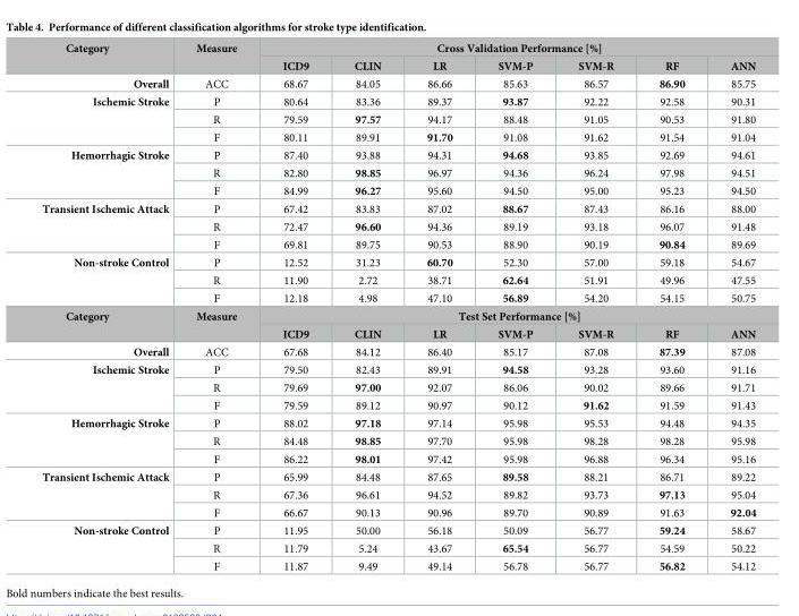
<table><tbody><tr><td rowspan="2">Category</td><td rowspan="2">Measure</td><td colspan="7">Cross Validation Performance [%]</td></tr><tr><td>ICD9</td><td>CLIN</td><td>LR</td><td>SVM-P</td><td>SVM-R</td><td>RF</td><td>ANN</td></tr><tr><td>Overall</td><td>ACC</td><td>68.67</td><td>84.05</td><td>86.66</td><td>85.63</td><td>86.57</td><td>86.90</td><td>85.75</td></tr><tr><td rowspan="3">Ischemic Stroke</td><td>P</td><td>80.64</td><td>83.36</td><td>89.37</td><td>93.87</td><td>92.22</td><td>92.58</td><td>90.31</td></tr><tr><td>R</td><td>79.59</td><td>97.57</td><td>94.17</td><td>88.48</td><td>91.05</td><td>90.53</td><td>91.80</td></tr><tr><td>F</td><td>80.11</td><td>89.91</td><td>91.70</td><td>91.08</td><td>91.62</td><td>91.54</td><td>91.04</td></tr><tr><td rowspan="3">Hemorrhagic Stroke</td><td>P</td><td>87.40</td><td>93.88</td><td>94.31</td><td>94.68</td><td>93.85</td><td>92.69</td><td>94.61</td></tr><tr><td>R</td><td>82.80</td><td>98.85</td><td>96.97</td><td>94.36</td><td>96.24</td><td>97.98</td><td>94.51</td></tr><tr><td>F</td><td>84.99</td><td>96.27</td><td>95.60</td><td>94.50</td><td>95.00</td><td>95.23</td><td>94.50</td></tr><tr><td rowspan="3">Transient Ischemic Attack</td><td>P</td><td>67.42</td><td>83.83</td><td>87.02</td><td>88.67</td><td>87.43</td><td>86.16</td><td>88.00</td></tr><tr><td>R</td><td>72.47</td><td>96.60</td><td>94.36</td><td>89.19</td><td>93.18</td><td>96.07</td><td>91.48</td></tr><tr><td>F</td><td>69.81</td><td>89.75</td><td>90.53</td><td>88.90</td><td>90.19</td><td>90.84</td><td>89.69</td></tr><tr><td rowspan="3">Non-stroke Control</td><td>P</td><td>12.52</td><td>31.23</td><td>60.70</td><td>52.30</td><td>57.00</td><td>59.18</td><td>54.67</td></tr><tr><td>R</td><td>11.90</td><td>2.72</td><td>38.71</td><td>62.64</td><td>51.91</td><td>49.96</td><td>47.55</td></tr><tr><td>F</td><td>12.18</td><td>4.98</td><td>47.10</td><td>56.89</td><td>54.20</td><td>54.15</td><td>50.75</td></tr><tr><td rowspan="2">Category</td><td rowspan="2">Measure</td><td colspan="7">Test Set Performance [%]</td></tr><tr><td>ICD9</td><td>CLIN</td><td>LR</td><td>SVM-P</td><td>SVM-R</td><td>RF</td><td>ANN</td></tr><tr><td>Overall</td><td>ACC</td><td>67.68</td><td>84.12</td><td>86.40</td><td>85.17</td><td>87.08</td><td>87.39</td><td>87.08</td></tr><tr><td rowspan="3">Ischemic Stroke</td><td>P</td><td>79.50</td><td>82.43</td><td>89.91</td><td>94.58</td><td>93.28</td><td>93.60</td><td>91.16</td></tr><tr><td>R</td><td>79.69</td><td>97.00</td><td>92.07</td><td>86.06</td><td>90.02</td><td>89.66</td><td>91.71</td></tr><tr><td>F</td><td>79.59</td><td>89.12</td><td>90.97</td><td>90.12</td><td>91.62</td><td>91.59</td><td>91.43</td></tr><tr><td rowspan="3">Hemorrhagic Stroke</td><td>P</td><td>88.02</td><td>97.18</td><td>97.14</td><td>95.98</td><td>95.53</td><td>94.48</td><td>94.35</td></tr><tr><td>R</td><td>84.48</td><td>98.85</td><td>97.70</td><td>95.98</td><td>98.28</td><td>98.28</td><td>95.98</td></tr><tr><td>F</td><td>86.22</td><td>98.01</td><td>97.42</td><td>95.98</td><td>96.88</td><td>96.34</td><td>95.16</td></tr><tr><td rowspan="3">Transient Ischemic Attack</td><td>P</td><td>65.99</td><td>84.48</td><td>87.65</td><td>89.58</td><td>88.21</td><td>86.71</td><td>89.22</td></tr><tr><td>R</td><td>67.36</td><td>96.61</td><td>94.52</td><td>89.82</td><td>93.73</td><td>97.13</td><td>95.04</td></tr><tr><td>F</td><td>66.67</td><td>90.13</td><td>90.96</td><td>89.70</td><td>90.89</td><td>91.63</td><td>92.04</td></tr><tr><td rowspan="3">Non-stroke Control</td><td>P</td><td>11.95</td><td>50.00</td><td>56.18</td><td>50.09</td><td>56.77</td><td>59.24</td><td>58.67</td></tr><tr><td>R</td><td>11.79</td><td>5.24</td><td>43.67</td><td>65.54</td><td>56.77</td><td>54.59</td><td>50.22</td></tr><tr><td>F</td><td>11.87</td><td>9.49</td><td>49.14</td><td>56.78</td><td>56.77</td><td>56.82</td><td>54.12</td></tr></tbody></table>